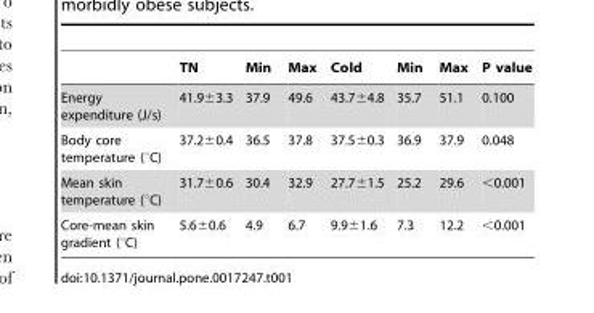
<table><thead><tr><td></td><td>TN</td><td>Min</td><td>Max</td><td>Cold</td><td>Min</td><td>Max</td><td>P value</td></tr></thead><tbody><tr><td>Energy expenditure (J/s)</td><td>41.9±3.3</td><td>37.9</td><td>49.6</td><td>43.7±4.8</td><td>35.7</td><td>51.1</td><td>0.100</td></tr><tr><td>Body core temperature (°C)</td><td>37.2±0.4</td><td>36.5</td><td>37.8</td><td>37.5±0.3</td><td>36.9</td><td>37.9</td><td>0.048</td></tr><tr><td>Mean skin temperature (°C)</td><td>31.7±0.6</td><td>30.4</td><td>32.9</td><td>27.7±1.5</td><td>25.2</td><td>29.6</td><td>&lt;0.001</td></tr><tr><td>Core-mean skin gradient (°C)</td><td>5.6±0.6</td><td>4.9</td><td>6.7</td><td>9.9±1.6</td><td>7.3</td><td>12.2</td><td>&lt;0.001</td></tr></tbody></table>